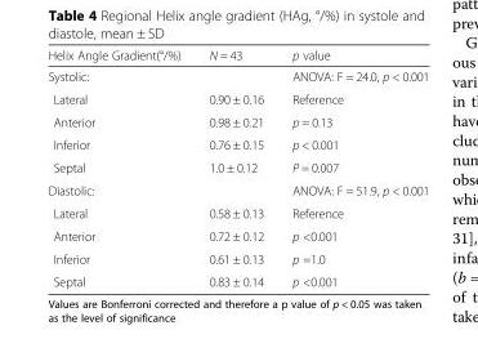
<table><thead><tr><td>Helix Angle Gradient(°/%)</td><td>N = 43</td><td>p value</td></tr></thead><tbody><tr><td>Systolic:</td><td></td><td>ANOVA: F = 24.0, p &lt; 0.001</td></tr><tr><td>Lateral</td><td>0.90 ± 0.16</td><td>Reference</td></tr><tr><td>Anterior</td><td>0.98 ± 0.21</td><td>p = 0.13</td></tr><tr><td>Inferior</td><td>0.76 ± 0.15</td><td>p &lt; 0.001</td></tr><tr><td>Septal</td><td>1.0 ± 0.12</td><td>P = 0.007</td></tr><tr><td>Diastolic:</td><td></td><td>ANOVA: F = 51.9, p &lt; 0.001</td></tr><tr><td>Lateral</td><td>0.58 ± 0.13</td><td>Reference</td></tr><tr><td>Anterior</td><td>0.72 ± 0.12</td><td>p &lt;0.001</td></tr><tr><td>Inferior</td><td>0.61 ± 0.13</td><td>p =1.0</td></tr><tr><td>Septal</td><td>0.83 ± 0.14</td><td>p &lt;0.001</td></tr></tbody></table>